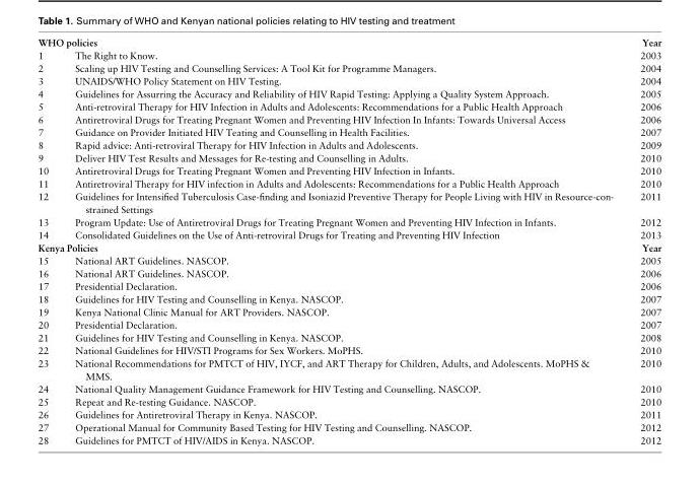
<table><tbody><tr><td colspan="2">WHO policies</td><td>Year</td></tr><tr><td>1</td><td>The Right to Know.</td><td>2003</td></tr><tr><td>2</td><td>Scaling up HIV Testing and Counselling Services: A Tool Kit for Programme Managers.</td><td>2004</td></tr><tr><td>3</td><td>UNAIDS/WHO Policy Statement on HIV Testing.</td><td>2004</td></tr><tr><td>4</td><td>Guidelines for Assurring the Accuracy and Reliability of HIV Rapid Testing: Applying a Quality System Approach.</td><td>2005</td></tr><tr><td>5</td><td>Anti-retroviral Therapy for HIV Infection in Adults and Adolescents: Recommendations for a Public Health Approach</td><td>2006</td></tr><tr><td>6</td><td>Antiretroviral Drugs for Treating Pregnant Women and Preventing HIV Infection In Infants: Towards Universal Access</td><td>2006</td></tr><tr><td>7</td><td>Guidance on Provider Initiated HIV Teating and Counselling in Health Facilities.</td><td>2007</td></tr><tr><td>8</td><td>Rapid advice: Anti-retroviral Therapy for HIV Infection in Adults and Adolescents.</td><td>2009</td></tr><tr><td>9</td><td>Deliver HIV Test Results and Messages for Re-testing and Counselling in Adults.</td><td>2010</td></tr><tr><td>10</td><td>Antiretroviral Drugs for Treating Pregnant Women and Preventing HIV Infection in Infants.</td><td>2010</td></tr><tr><td>11</td><td>Antiretroviral Therapy for HIV infection in Adults and Adolescents: Recommendations for a Public Health Approach</td><td>2010</td></tr><tr><td>12</td><td>Guidelines for Intensified Tuberculosis Case-finding and Isoniazid Preventive Therapy for People Living with HIV in Resource-con- strained Settings</td><td>2011</td></tr><tr><td>13</td><td>Program Update: Use of Antiretroviral Drugs for Treating Pregnant Women and Preventing HIV Infection in Infants.</td><td>2012</td></tr><tr><td>14</td><td>Consolidated Guidelines on the Use of Anti-retroviral Drugs for Treating and Preventing HIV Infection</td><td>2013</td></tr><tr><td colspan="2">Kenya Policies</td><td>Year</td></tr><tr><td>15</td><td>National ART Guidelines. NASCOP.</td><td>2005</td></tr><tr><td>16</td><td>National ART Guidelines. NASCOP.</td><td>2006</td></tr><tr><td>17</td><td>Presidential Declaration.</td><td>2006</td></tr><tr><td>18</td><td>Guidelines for HIV Testing and Counselling in Kenya. NASCOP.</td><td>2007</td></tr><tr><td>19</td><td>Kenya National Clinic Manual for ART Providers. NASCOP.</td><td>2007</td></tr><tr><td>20</td><td>Presidential Declaration.</td><td>2007</td></tr><tr><td>21</td><td>Guidelines for HIV Testing and Counselling in Kenya. NASCOP.</td><td>2008</td></tr><tr><td>22</td><td>National Guidelines for HIV/STI Programs for Sex Workers. MoPHS.</td><td>2010</td></tr><tr><td>23</td><td>National Recommendations for PMTCT of HIV, IYCF, and ART Therapy for Children, Adults, and Adolescents. MoPHS &amp; MMS.</td><td>2010</td></tr><tr><td>24</td><td>National Quality Management Guidance Framework for HIV Testing and Counselling. NASCOP.</td><td>2010</td></tr><tr><td>25</td><td>Repeat and Re-testing Guidance. NASCOP.</td><td>2010</td></tr><tr><td>26</td><td>Guidelines for Antiretroviral Therapy in Kenya. NASCOP.</td><td>2011</td></tr><tr><td>27</td><td>Operational Manual for Community Based Testing for HIV Testing and Counselling. NASCOP.</td><td>2012</td></tr><tr><td>28</td><td>Guidelines for PMTCT of HIV/AIDS in Kenya. NASCOP.</td><td>2012</td></tr></tbody></table>